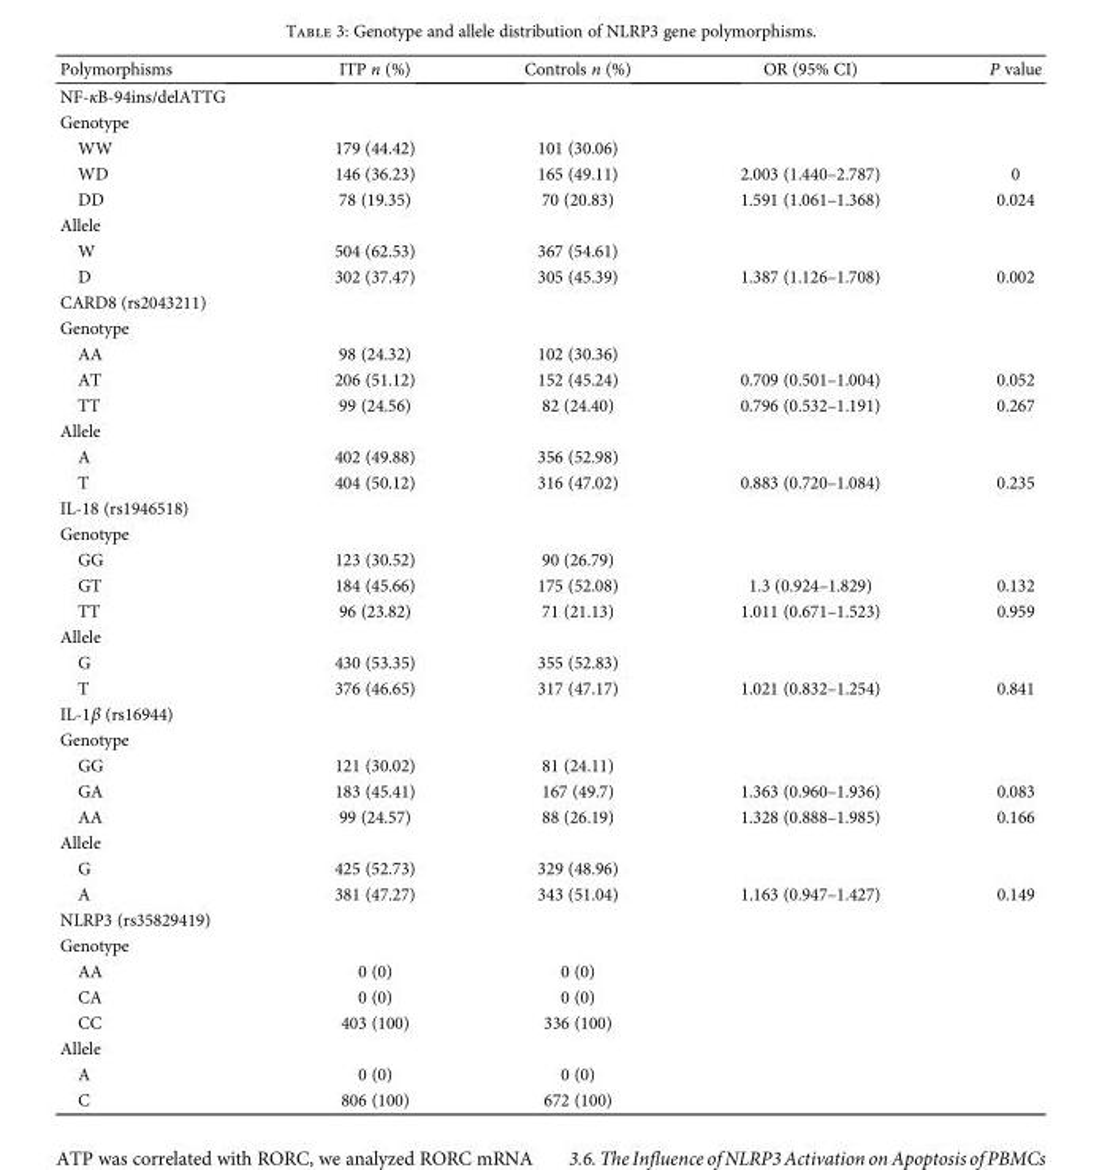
<table><thead><tr><td>Polymorphisms</td><td>ITP n (%)</td><td>Controls n (%)</td><td>OR (95% CI)</td><td>P value</td></tr></thead><tbody><tr><td colspan="5">NF-κB-94ins/delATTG</td></tr><tr><td colspan="5">Genotype</td></tr><tr><td>WW</td><td>179 (44.42)</td><td>101 (30.06)</td><td></td><td></td></tr><tr><td>WD</td><td>146 (36.23)</td><td>165 (49.11)</td><td>2.003 (1.440–2.787)</td><td>0</td></tr><tr><td>DD</td><td>78 (19.35)</td><td>70 (20.83)</td><td>1.591 (1.061–1.368)</td><td>0.024</td></tr><tr><td colspan="5">Allele</td></tr><tr><td>W</td><td>504 (62.53)</td><td>367 (54.61)</td><td></td><td></td></tr><tr><td>D</td><td>302 (37.47)</td><td>305 (45.39)</td><td>1.387 (1.126–1.708)</td><td>0.002</td></tr><tr><td colspan="5">CARD8 (rs2043211)</td></tr><tr><td colspan="5">Genotype</td></tr><tr><td>AA</td><td>98 (24.32)</td><td>102 (30.36)</td><td></td><td></td></tr><tr><td>AT</td><td>206 (51.12)</td><td>152 (45.24)</td><td>0.709 (0.501–1.004)</td><td>0.052</td></tr><tr><td>TT</td><td>99 (24.56)</td><td>82 (24.40)</td><td>0.796 (0.532–1.191)</td><td>0.267</td></tr><tr><td colspan="5">Allele</td></tr><tr><td>A</td><td>402 (49.88)</td><td>356 (52.98)</td><td></td><td></td></tr><tr><td>T</td><td>404 (50.12)</td><td>316 (47.02)</td><td>0.883 (0.720–1.084)</td><td>0.235</td></tr><tr><td colspan="5">IL-18 (rs1946518)</td></tr><tr><td colspan="5">Genotype</td></tr><tr><td>GG</td><td>123 (30.52)</td><td>90 (26.79)</td><td></td><td></td></tr><tr><td>GT</td><td>184 (45.66)</td><td>175 (52.08)</td><td>1.3 (0.924–1.829)</td><td>0.132</td></tr><tr><td>TT</td><td>96 (23.82)</td><td>71 (21.13)</td><td>1.011 (0.671–1.523)</td><td>0.959</td></tr><tr><td colspan="5">Allele</td></tr><tr><td>G</td><td>430 (53.35)</td><td>355 (52.83)</td><td></td><td></td></tr><tr><td>T</td><td>376 (46.65)</td><td>317 (47.17)</td><td>1.021 (0.832–1.254)</td><td>0.841</td></tr><tr><td colspan="5">IL-1β (rs16944)</td></tr><tr><td colspan="5">Genotype</td></tr><tr><td>GG</td><td>121 (30.02)</td><td>81 (24.11)</td><td></td><td></td></tr><tr><td>GA</td><td>183 (45.41)</td><td>167 (49.7)</td><td>1.363 (0.960–1.936)</td><td>0.083</td></tr><tr><td>AA</td><td>99 (24.57)</td><td>88 (26.19)</td><td>1.328 (0.888–1.985)</td><td>0.166</td></tr><tr><td colspan="5">Allele</td></tr><tr><td>G</td><td>425 (52.73)</td><td>329 (48.96)</td><td></td><td></td></tr><tr><td>A</td><td>381 (47.27)</td><td>343 (51.04)</td><td>1.163 (0.947–1.427)</td><td>0.149</td></tr><tr><td colspan="5">NLRP3 (rs35829419)</td></tr><tr><td colspan="5">Genotype</td></tr><tr><td>AA</td><td>0 (0)</td><td>0 (0)</td><td></td><td></td></tr><tr><td>CA</td><td>0 (0)</td><td>0 (0)</td><td></td><td></td></tr><tr><td>CC</td><td>403 (100)</td><td>336 (100)</td><td></td><td></td></tr><tr><td colspan="5">Allele</td></tr><tr><td>A</td><td>0 (0)</td><td>0 (0)</td><td></td><td></td></tr><tr><td>C</td><td>806 (100)</td><td>672 (100)</td><td></td><td></td></tr></tbody></table>